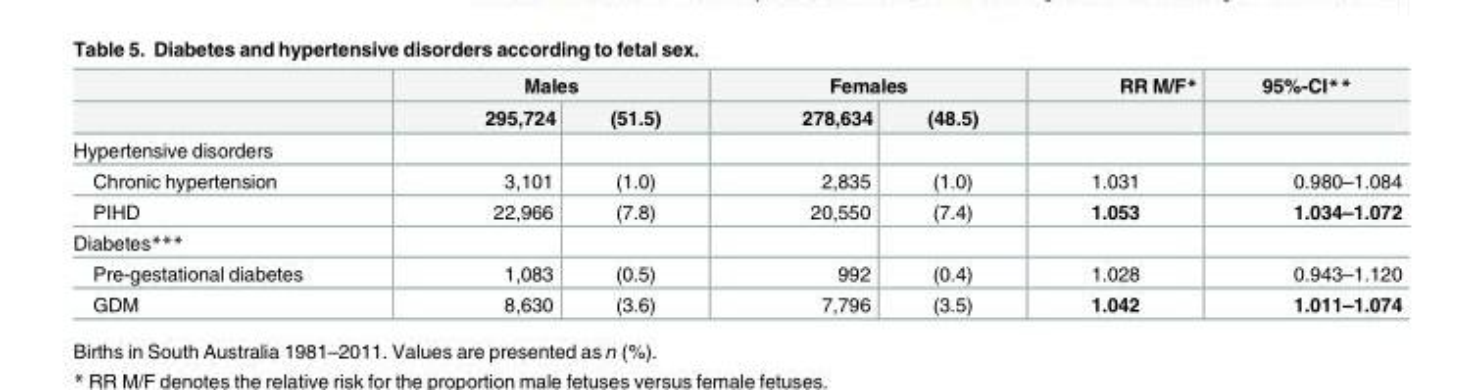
<table><thead><tr><td rowspan="2"></td><td colspan="2">Males</td><td colspan="2">Females</td><td rowspan="2">RR M/F*</td><td rowspan="2">95%-CI**</td></tr><tr><td>295,724</td><td>(51.5)</td><td>278,634</td><td>(48.5)</td></tr></thead><tbody><tr><td colspan="7">Hypertensive disorders</td></tr><tr><td>Chronic hypertension</td><td>3,101</td><td>(1.0)</td><td>2,835</td><td>(1.0)</td><td>1.031</td><td>0.980–1.084</td></tr><tr><td>PIHD</td><td>22,966</td><td>(7.8)</td><td>20,550</td><td>(7.4)</td><td>1.053</td><td>1.034–1.072</td></tr><tr><td colspan="7">Diabetes***</td></tr><tr><td>Pre-gestational diabetes</td><td>1,083</td><td>(0.5)</td><td>992</td><td>(0.4)</td><td>1.028</td><td>0.943–1.120</td></tr><tr><td>GDM</td><td>8,630</td><td>(3.6)</td><td>7,796</td><td>(3.5)</td><td>1.042</td><td>1.011–1.074</td></tr></tbody></table>